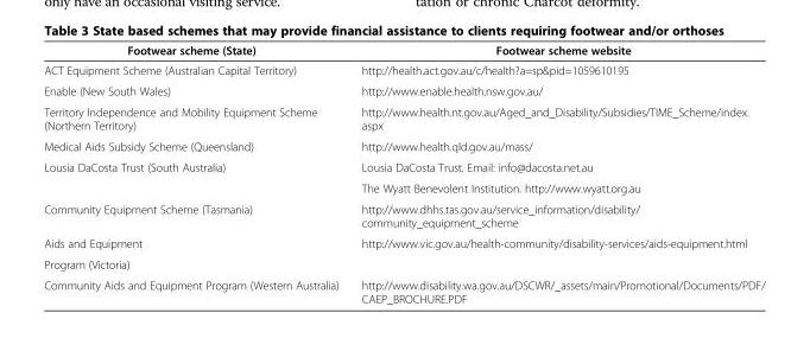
<table><thead><tr><td>Footwear scheme (State)</td><td>Footwear scheme website</td></tr></thead><tbody><tr><td>ACT Equipment Scheme (Australian Capital Territory)</td><td>http://health.act.gov.au/c/health?a=sp&amp;pid=1059610195</td></tr><tr><td>Enable (New South Wales)</td><td>http://www.enable.health.nsw.gov.au/</td></tr><tr><td>Territory Independence and Mobility Equipment Scheme (Northern Territory)</td><td>http://www.health.nt.gov.au/Aged_and_Disability/Subsidies/TIME_Scheme/index. aspx</td></tr><tr><td>Medical Aids Subsidy Scheme (Queensland)</td><td>http://www.health.qld.gov.au/mass/</td></tr><tr><td rowspan="2">Lousia DaCosta Trust (South Australia)</td><td>Lousia DaCosta Trust. Email: info@dacosta.net.au</td></tr><tr><td>The Wyatt Benevolent Institution. http://www.wyatt.org.au</td></tr><tr><td>Community Equipment Scheme (Tasmania)</td><td>http://www.dhhs.tas.gov.au/service_information/disability/ community_equipment_scheme</td></tr><tr><td>Aids and Equipment</td><td>http://www.vic.gov.au/health-community/disability-services/aids-equipment.html</td></tr><tr><td colspan="2">Program (Victoria)</td></tr><tr><td>Community Aids and Equipment Program (Western Australia)</td><td>http://www.disability.wa.gov.au/DSCWR/_assets/main/Promotional/Documents/PDF/ CAEP_BROCHURE.PDF</td></tr></tbody></table>